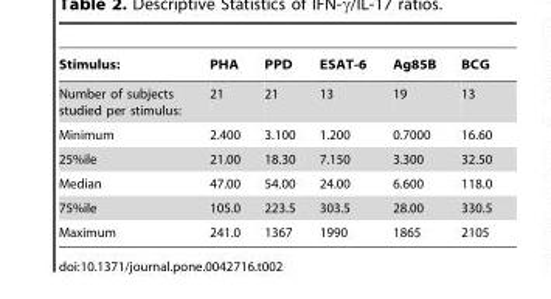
<table><thead><tr><td>Stimulus:</td><td>PHA</td><td>PPD</td><td>ESAT-6</td><td>Ag85B</td><td>BCG</td></tr></thead><tbody><tr><td>Number of subjects studied per stimulus:</td><td>21</td><td>21</td><td>13</td><td>19</td><td>13</td></tr><tr><td>Minimum</td><td>2.400</td><td>3.100</td><td>1.200</td><td>0.7000</td><td>16.60</td></tr><tr><td>25%ile</td><td>21.00</td><td>18.30</td><td>7.150</td><td>3.300</td><td>32.50</td></tr><tr><td>Median</td><td>47.00</td><td>54.00</td><td>24.00</td><td>6.600</td><td>118.0</td></tr><tr><td>75%ile</td><td>105.0</td><td>223.5</td><td>303.5</td><td>28.00</td><td>330.5</td></tr><tr><td>Maximum</td><td>241.0</td><td>1367</td><td>1990</td><td>1865</td><td>2105</td></tr></tbody></table>